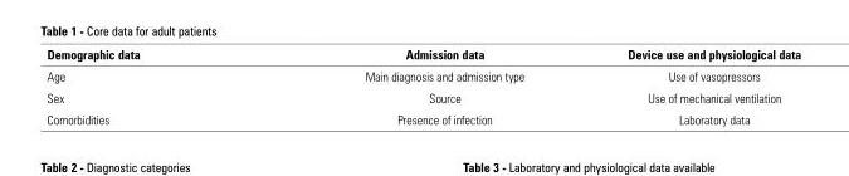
<table><thead><tr><td>Demographic data</td><td>Admission data</td><td>Device use and physiological data</td></tr></thead><tbody><tr><td>Age</td><td>Main diagnosis and admission type</td><td>Use of vasopressors</td></tr><tr><td>Sex</td><td>Source</td><td>Use of mechanical ventilation</td></tr><tr><td>Comorbidities</td><td>Presence of infection</td><td>Laboratory data</td></tr></tbody></table>